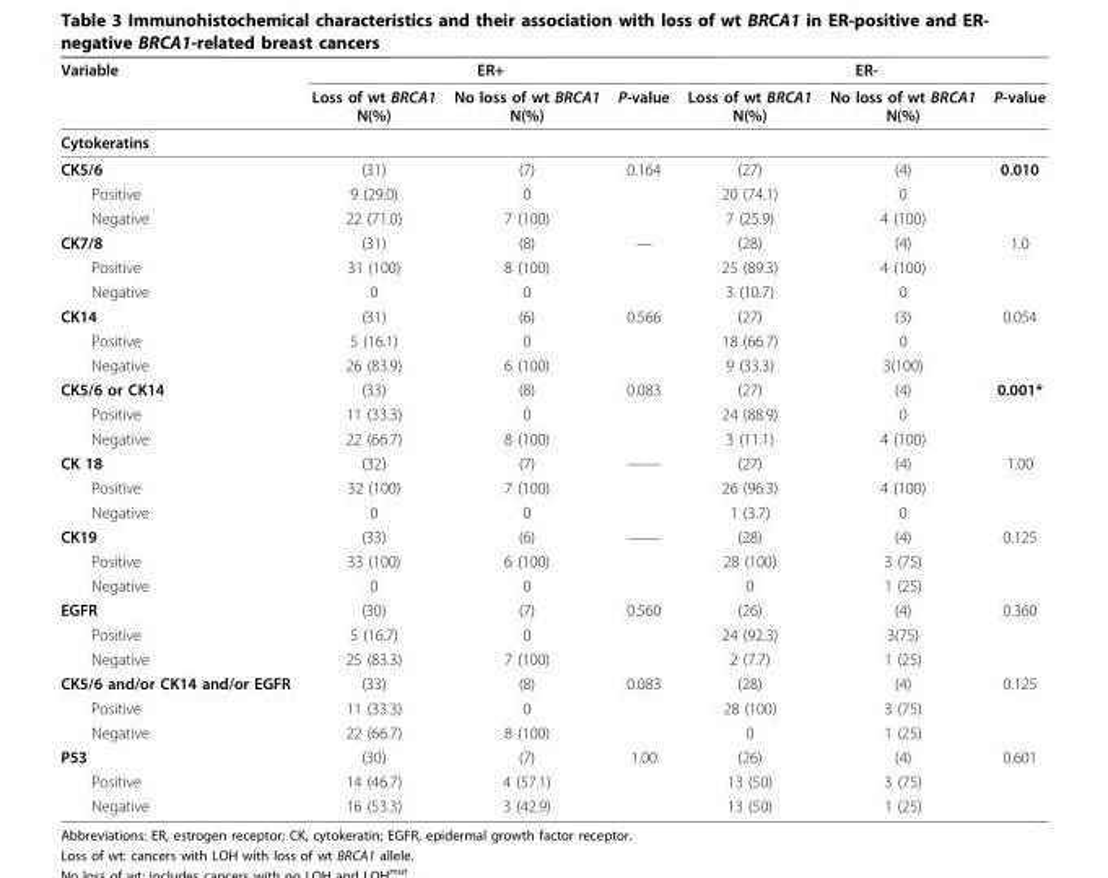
<table><thead><tr><td rowspan="2">Variable</td><td colspan="3">ER+</td><td colspan="3">ER-</td></tr><tr><td>Loss of wt BRCA1 N(%)</td><td>No loss of wt BRCA1 N(%)</td><td>P-value</td><td>Loss of wt BRCA1 N(%)</td><td>No loss of wt BRCA1 N(%)</td><td>P-value</td></tr></thead><tbody><tr><td colspan="7">Cytokeratins</td></tr><tr><td>CK5/6</td><td>(31)</td><td>(7)</td><td>0.164</td><td>(27)</td><td>(4)</td><td>0.010</td></tr><tr><td>Positive</td><td>9 (29.0)</td><td>0</td><td></td><td>20 (74.1)</td><td>0</td><td></td></tr><tr><td>Negative</td><td>22 (71.0)</td><td>7 (100)</td><td></td><td>7 (25.9)</td><td>4 (100)</td><td></td></tr><tr><td>CK7/8</td><td>(31)</td><td>(8)</td><td>—</td><td>(28)</td><td>(4)</td><td>1.0</td></tr><tr><td>Positive</td><td>31 (100)</td><td>8 (100)</td><td></td><td>25 (89.3)</td><td>4 (100)</td><td></td></tr><tr><td>Negative</td><td>0</td><td>0</td><td></td><td>3 (10.7)</td><td>0</td><td></td></tr><tr><td>CK14</td><td>(31)</td><td>(6)</td><td>0.566</td><td>(27)</td><td>(3)</td><td>0.054</td></tr><tr><td>Positive</td><td>5 (16.1)</td><td>0</td><td></td><td>18 (66.7)</td><td>0</td><td></td></tr><tr><td>Negative</td><td>26 (83.9)</td><td>6 (100)</td><td></td><td>9 (33.3)</td><td>3(100)</td><td></td></tr><tr><td>CK5/6 or CK14</td><td>(33)</td><td>(8)</td><td>0.083</td><td>(27)</td><td>(4)</td><td>0.001*</td></tr><tr><td>Positive</td><td>11 (33.3)</td><td>0</td><td></td><td>24 (88.9)</td><td>0</td><td></td></tr><tr><td>Negative</td><td>22 (66.7)</td><td>8 (100)</td><td></td><td>3 (11.1)</td><td>4 (100)</td><td></td></tr><tr><td>CK 18</td><td>(32)</td><td>(7)</td><td>——</td><td>(27)</td><td>(4)</td><td>1.00</td></tr><tr><td>Positive</td><td>32 (100)</td><td>7 (100)</td><td></td><td>26 (96.3)</td><td>4 (100)</td><td></td></tr><tr><td>Negative</td><td>0</td><td>0</td><td></td><td>1 (3.7)</td><td>0</td><td></td></tr><tr><td>CK19</td><td>(33)</td><td>(6)</td><td>——</td><td>(28)</td><td>(4)</td><td>0.125</td></tr><tr><td>Positive</td><td>33 (100)</td><td>6 (100)</td><td></td><td>28 (100)</td><td>3 (75)</td><td></td></tr><tr><td>Negative</td><td>0</td><td>0</td><td></td><td>0</td><td>1 (25)</td><td></td></tr><tr><td>EGFR</td><td>(30)</td><td>(7)</td><td>0.560</td><td>(26)</td><td>(4)</td><td>0.360</td></tr><tr><td>Positive</td><td>5 (16.7)</td><td>0</td><td></td><td>24 (92.3)</td><td>3(75)</td><td></td></tr><tr><td>Negative</td><td>25 (83.3)</td><td>7 (100)</td><td></td><td>2 (7.7)</td><td>1 (25)</td><td></td></tr><tr><td>CK5/6 and/or CK14 and/or EGFR</td><td>(33)</td><td>(8)</td><td>0.083</td><td>(28)</td><td>(4)</td><td>0.125</td></tr><tr><td>Positive</td><td>11 (33.3)</td><td>0</td><td></td><td>28 (100)</td><td>3 (75)</td><td></td></tr><tr><td>Negative</td><td>22 (66.7)</td><td>8 (100)</td><td></td><td>0</td><td>1 (25)</td><td></td></tr><tr><td>P53</td><td>(30)</td><td>(7)</td><td>1.00</td><td>(26)</td><td>(4)</td><td>0.601</td></tr><tr><td>Positive</td><td>14 (46.7)</td><td>4 (57.1)</td><td></td><td>13 (50)</td><td>3 (75)</td><td></td></tr><tr><td>Negative</td><td>16 (53.3)</td><td>3 (42.9)</td><td></td><td>13 (50)</td><td>1 (25)</td><td></td></tr></tbody></table>